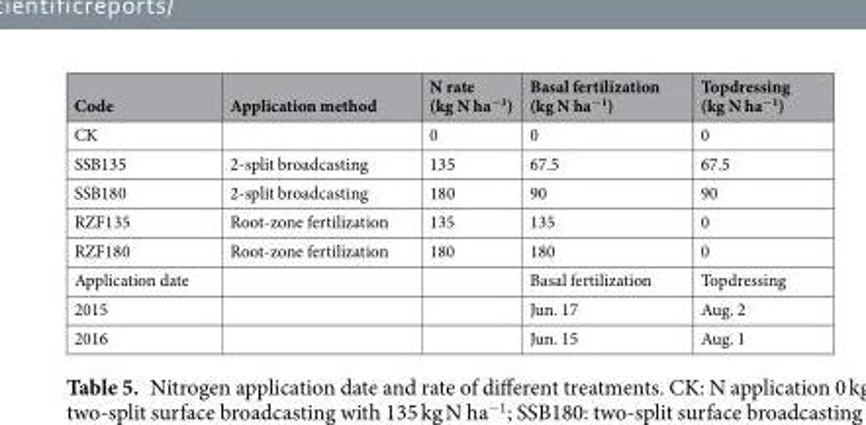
<table><thead><tr><td>Code</td><td>Application method</td><td>N rate (kg N ha<sup>−1</sup>)</td><td>Basal fertilization (kg N ha<sup>−1</sup>)</td><td>Topdressing (kg N ha<sup>−1</sup>)</td></tr></thead><tbody><tr><td>CK</td><td></td><td>0</td><td>0</td><td>0</td></tr><tr><td>SSB135</td><td>2-split broadcasting</td><td>135</td><td>67.5</td><td>67.5</td></tr><tr><td>SSB180</td><td>2-split broadcasting</td><td>180</td><td>90</td><td>90</td></tr><tr><td>RZF135</td><td>Root-zone fertilization</td><td>135</td><td>135</td><td>0</td></tr><tr><td>RZF180</td><td>Root-zone fertilization</td><td>180</td><td>180</td><td>0</td></tr><tr><td>Application date</td><td></td><td></td><td>Basal fertilization</td><td>Topdressing</td></tr><tr><td>2015</td><td></td><td></td><td>Jun. 17</td><td>Aug. 2</td></tr><tr><td>2016</td><td></td><td></td><td>Jun. 15</td><td>Aug. 1</td></tr></tbody></table>